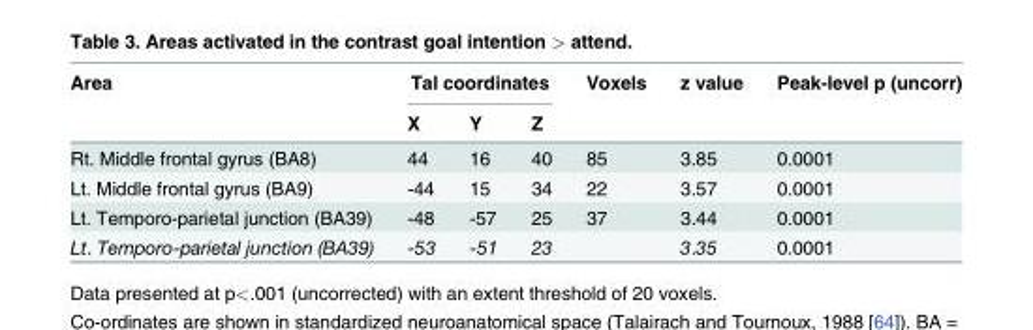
<table><thead><tr><td rowspan="2">Area</td><td colspan="3">Tal coordinates</td><td rowspan="2">Voxels</td><td rowspan="2">z value</td><td rowspan="2">Peak-level p (uncorr)</td></tr><tr><td>X</td><td>Y</td><td>Z</td></tr></thead><tbody><tr><td>Rt. Middle frontal gyrus (BA8)</td><td>44</td><td>16</td><td>40</td><td>85</td><td>3.85</td><td>0.0001</td></tr><tr><td>Lt. Middle frontal gyrus (BA9)</td><td>-44</td><td>15</td><td>34</td><td>22</td><td>3.57</td><td>0.0001</td></tr><tr><td>Lt. Temporo-parietal junction (BA39)</td><td>-48</td><td>-57</td><td>25</td><td>37</td><td>3.44</td><td>0.0001</td></tr><tr><td>Lt. Temporo-parietal junction (BA39)</td><td>-53</td><td>-51</td><td>23</td><td></td><td>3.35</td><td>0.0001</td></tr></tbody></table>